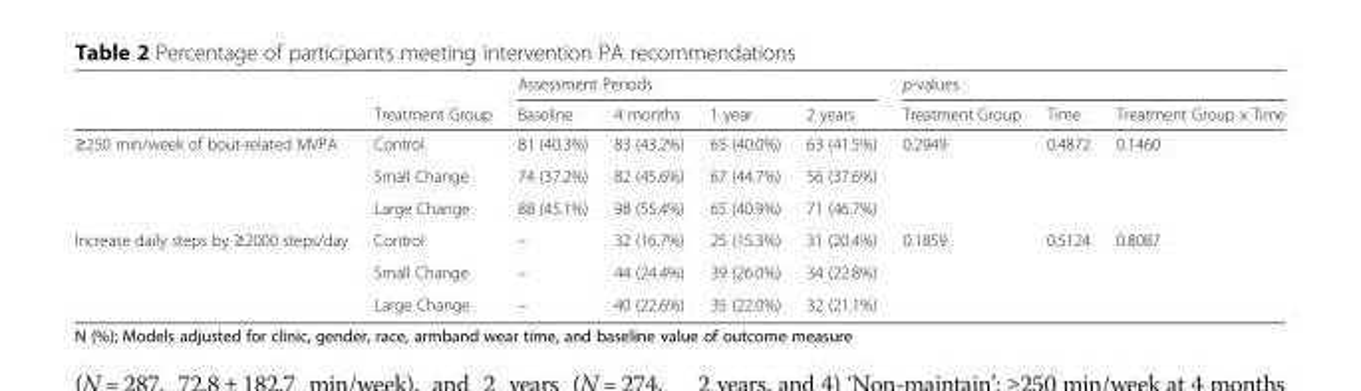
<table><thead><tr><td rowspan="2"></td><td rowspan="2">Treatment Group</td><td colspan="4">Assessment Periods</td><td colspan="3">p-values</td></tr><tr><td>Baseline</td><td>4 months</td><td>1 year</td><td>2 years</td><td>Treatment Group</td><td>Time</td><td>Treatment Group x Time</td></tr></thead><tbody><tr><td rowspan="3">≥250 min/week of bout-related MVPA</td><td>Control</td><td>81 (40.3%)</td><td>83 (43.2%)</td><td>65 (40.0%)</td><td>63 (41.5%)</td><td rowspan="3">0.2949</td><td rowspan="3">0.4872</td><td rowspan="3">0.1460</td></tr><tr><td>Small Change</td><td>74 (37.2%)</td><td>82 (45.6%)</td><td>67 (44.7%)</td><td>56 (37.6%)</td></tr><tr><td>Large Change</td><td>88 (45.1%)</td><td>98 (55.4%)</td><td>65 (40.9%)</td><td>71 (46.7%)</td></tr><tr><td rowspan="3">Increase daily steps by ≥2000 steps/day</td><td>Control</td><td>–</td><td>32 (16.7%)</td><td>25 (15.3%)</td><td>31 (20.4%)</td><td rowspan="3">0.1859</td><td rowspan="3">0.5124</td><td rowspan="3">0.8087</td></tr><tr><td>Small Change</td><td>–</td><td>44 (24.4%)</td><td>39 (26.0%)</td><td>34 (22.8%)</td></tr><tr><td>Large Change</td><td>–</td><td>40 (22.6%)</td><td>35 (22.0%)</td><td>32 (21.1%)</td></tr></tbody></table>